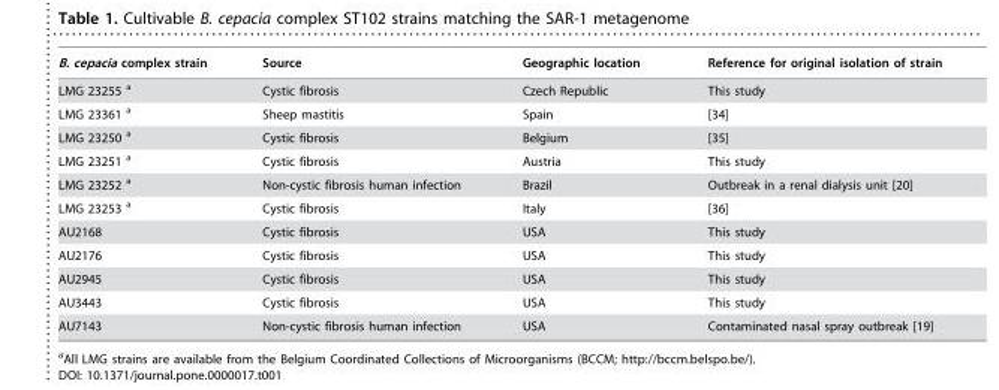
<table><thead><tr><td>B. cepacia complex strain</td><td>Source</td><td>Geographic location</td><td>Reference for original isolation of strain</td></tr></thead><tbody><tr><td>LMG 23255 a</td><td>Cystic fibrosis</td><td>Czech Republic</td><td>This study</td></tr><tr><td>LMG 23361 a</td><td>Sheep mastitis</td><td>Spain</td><td>[34]</td></tr><tr><td>LMG 23250 a</td><td>Cystic fibrosis</td><td>Belgium</td><td>[35]</td></tr><tr><td>LMG 23251 a</td><td>Cystic fibrosis</td><td>Austria</td><td>This study</td></tr><tr><td>LMG 23252 a</td><td>Non-cystic fibrosis human infection</td><td>Brazil</td><td>Outbreak in a renal dialysis unit [20]</td></tr><tr><td>LMG 23253 a</td><td>Cystic fibrosis</td><td>Italy</td><td>[36]</td></tr><tr><td>AU2168</td><td>Cystic fibrosis</td><td>USA</td><td>This study</td></tr><tr><td>AU2176</td><td>Cystic fibrosis</td><td>USA</td><td>This study</td></tr><tr><td>AU2945</td><td>Cystic fibrosis</td><td>USA</td><td>This study</td></tr><tr><td>AU3443</td><td>Cystic fibrosis</td><td>USA</td><td>This study</td></tr><tr><td>AU7143</td><td>Non-cystic fibrosis human infection</td><td>USA</td><td>Contaminated nasal spray outbreak [19]</td></tr></tbody></table>